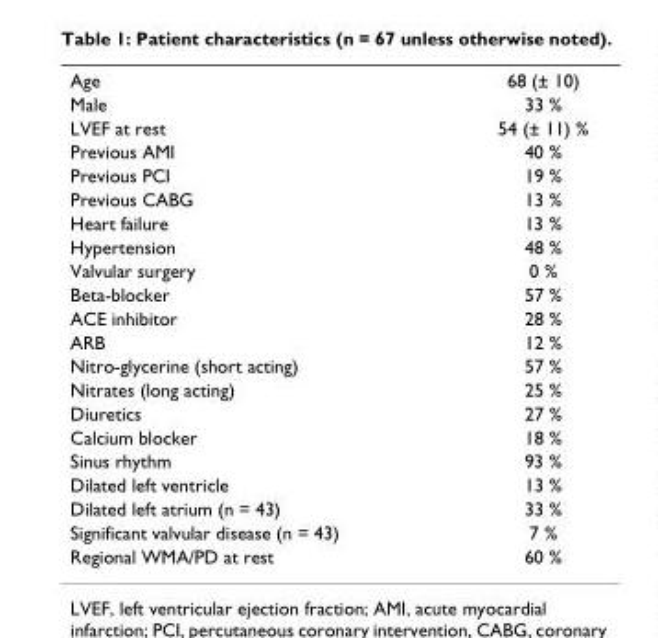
<table><tbody><tr><td>Age</td><td>68 (± 10)</td></tr><tr><td>Male</td><td>33 %</td></tr><tr><td>LVEF at rest</td><td>54 (± 11) %</td></tr><tr><td>Previous AMI</td><td>40 %</td></tr><tr><td>Previous PCI</td><td>19 %</td></tr><tr><td>Previous CABG</td><td>13 %</td></tr><tr><td>Heart failure</td><td>13 %</td></tr><tr><td>Hypertension</td><td>48 %</td></tr><tr><td>Valvular surgery</td><td>0 %</td></tr><tr><td>Beta-blocker</td><td>57 %</td></tr><tr><td>ACE inhibitor</td><td>28 %</td></tr><tr><td>ARB</td><td>12 %</td></tr><tr><td>Nitro-glycerine (short acting)</td><td>57 %</td></tr><tr><td>Nitrates (long acting)</td><td>25 %</td></tr><tr><td>Diuretics</td><td>27 %</td></tr><tr><td>Calcium blocker</td><td>18 %</td></tr><tr><td>Sinus rhythm</td><td>93 %</td></tr><tr><td>Dilated left ventricle</td><td>13 %</td></tr><tr><td>Dilated left atrium (n = 43)</td><td>33 %</td></tr><tr><td>Significant valvular disease (n = 43)</td><td>7 %</td></tr><tr><td>Regional WMA/PD at rest</td><td>60 %</td></tr></tbody></table>